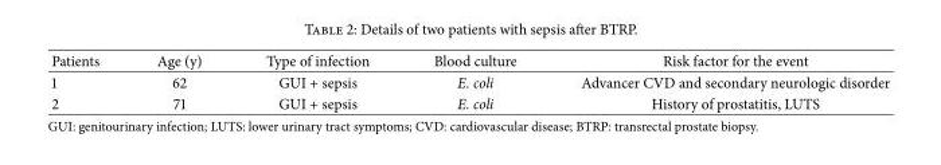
<table><thead><tr><td>Patients</td><td>Age (y)</td><td>Type of infection</td><td>Blood culture</td><td>Risk factor for the event</td></tr></thead><tbody><tr><td>1</td><td>62</td><td>GUI + sepsis</td><td>E. coli</td><td>Advancer CVD and secondary neurologic disorder</td></tr><tr><td>2</td><td>71</td><td>GUI + sepsis</td><td>E. coli</td><td>History of prostatitis, LUTS</td></tr></tbody></table>